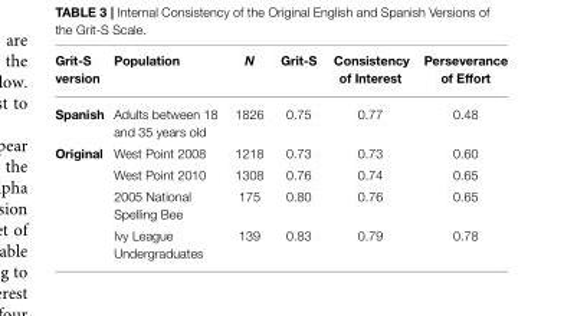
<table><thead><tr><td>Grit-S version</td><td>Population</td><td>N</td><td>Grit-S</td><td>Consistency of Interest</td><td>Perseverance of Effort</td></tr></thead><tbody><tr><td>Spanish</td><td>Adults between 18 and 35 years old</td><td>1826</td><td>0.75</td><td>0.77</td><td>0.48</td></tr><tr><td rowspan="4">Original</td><td>West Point 2008</td><td>1218</td><td>0.73</td><td>0.73</td><td>0.60</td></tr><tr><td>West Point 2010</td><td>1308</td><td>0.76</td><td>0.74</td><td>0.65</td></tr><tr><td>2005 National Spelling Bee</td><td>175</td><td>0.80</td><td>0.76</td><td>0.65</td></tr><tr><td>Ivy League Undergraduates</td><td>139</td><td>0.83</td><td>0.79</td><td>0.78</td></tr></tbody></table>